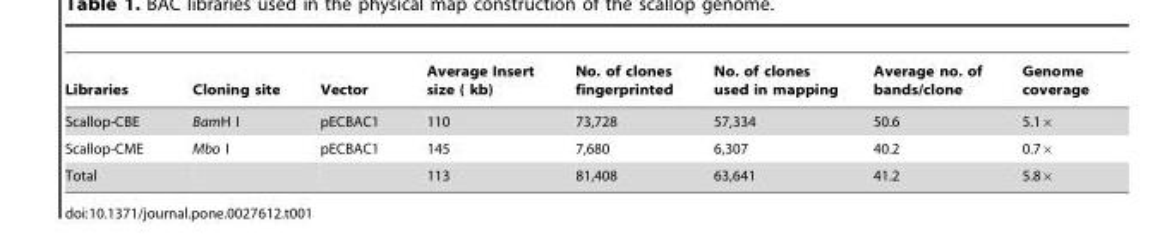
<table><thead><tr><td>Libraries</td><td>Cloning site</td><td>Vector</td><td>Average Insert size ( kb)</td><td>No. of clones fingerprinted</td><td>No. of clones used in mapping</td><td>Average no. of bands/clone</td><td>Genome coverage</td></tr></thead><tbody><tr><td>Scallop-CBE</td><td>BamH I</td><td>pECBAC1</td><td>110</td><td>73,728</td><td>57,334</td><td>50.6</td><td>5.1×</td></tr><tr><td>Scallop-CME</td><td>Mbo I</td><td>pECBAC1</td><td>145</td><td>7,680</td><td>6,307</td><td>40.2</td><td>0.7×</td></tr><tr><td>Total</td><td></td><td></td><td>113</td><td>81,408</td><td>63,641</td><td>41.2</td><td>5.8×</td></tr></tbody></table>